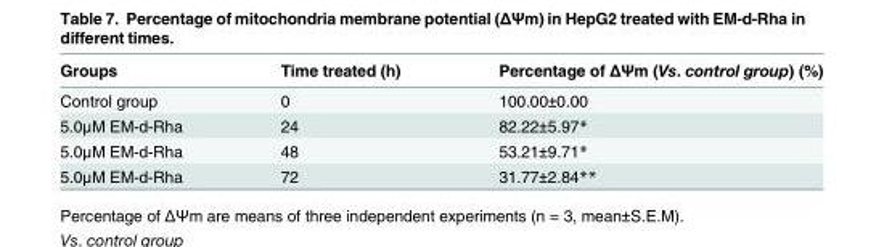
<table><thead><tr><td>Groups</td><td>Time treated (h)</td><td>Percentage of ΔΨm (Vs. control group) (%)</td></tr></thead><tbody><tr><td>Control group</td><td>0</td><td>100.00±0.00</td></tr><tr><td>5.0μM EM-d-Rha</td><td>24</td><td>82.22±5.97*</td></tr><tr><td>5.0μM EM-d-Rha</td><td>48</td><td>53.21±9.71*</td></tr><tr><td>5.0μM EM-d-Rha</td><td>72</td><td>31.77±2.84**</td></tr></tbody></table>